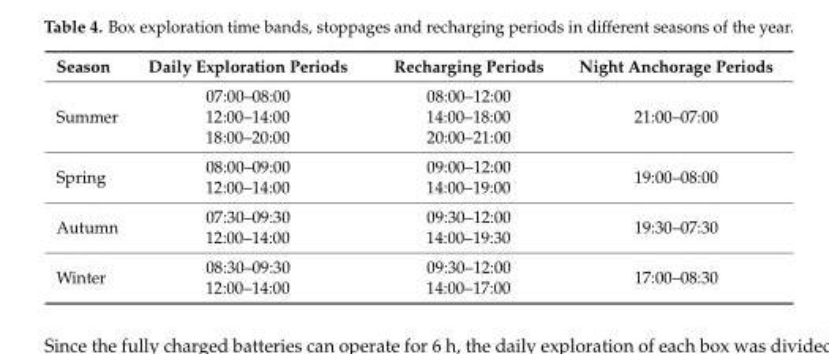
<table><thead><tr><td>Season</td><td>Daily Exploration Periods</td><td>Recharging Periods</td><td>Night Anchorage Periods</td></tr></thead><tbody><tr><td>Summer</td><td>07:00–08:00 12:00–14:00 18:00–20:00</td><td>08:00–12:00 14:00–18:00 20:00–21:00</td><td>21:00–07:00</td></tr><tr><td>Spring</td><td>08:00–09:00 12:00–14:00</td><td>09:00–12:00 14:00–19:00</td><td>19:00–08:00</td></tr><tr><td>Autumn</td><td>07:30–09:30 12:00–14:00</td><td>09:30–12:00 14:00–19:30</td><td>19:30–07:30</td></tr><tr><td>Winter</td><td>08:30–09:30 12:00–14:00</td><td>09:30–12:00 14:00–17:00</td><td>17:00–08:30</td></tr></tbody></table>